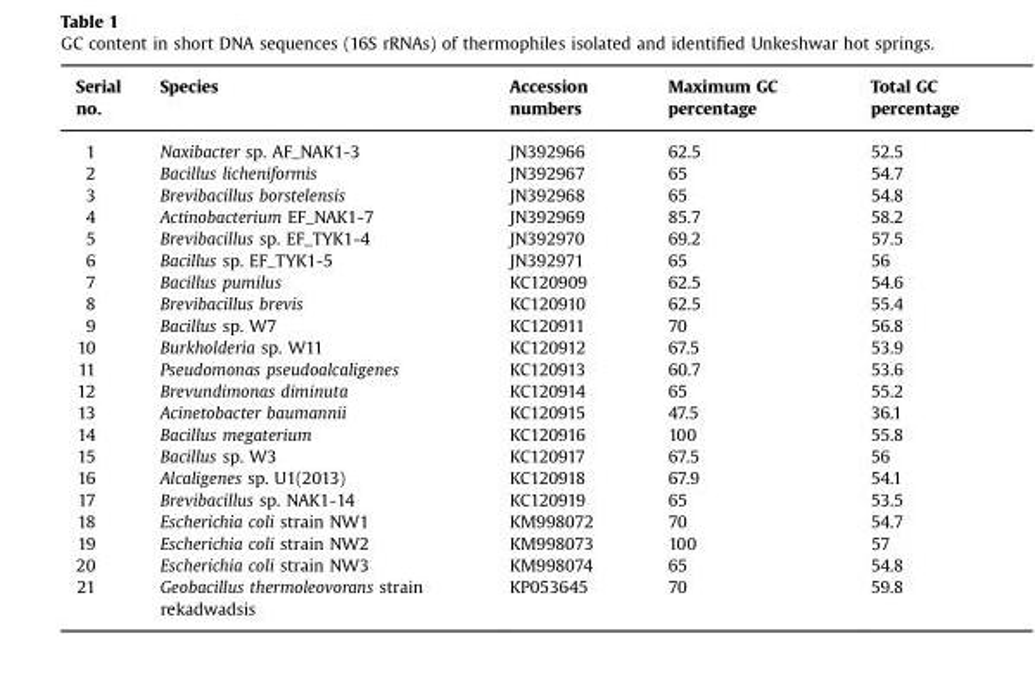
<table><thead><tr><td>Serial no.</td><td>Species</td><td>Accession numbers</td><td>Maximum GC percentage</td><td>Total GC percentage</td></tr></thead><tbody><tr><td>1</td><td>Naxibacter sp. AF_NAK1-3</td><td>JN392966</td><td>62.5</td><td>52.5</td></tr><tr><td>2</td><td>Bacillus licheniformis</td><td>JN392967</td><td>65</td><td>54.7</td></tr><tr><td>3</td><td>Brevibacillus borstelensis</td><td>JN392968</td><td>65</td><td>54.8</td></tr><tr><td>4</td><td>Actinobacterium EF_NAK1-7</td><td>JN392969</td><td>85.7</td><td>58.2</td></tr><tr><td>5</td><td>Brevibacillus sp. EF_TYK1-4</td><td>JN392970</td><td>69.2</td><td>57.5</td></tr><tr><td>6</td><td>Bacillus sp. EF_TYK1-5</td><td>JN392971</td><td>65</td><td>56</td></tr><tr><td>7</td><td>Bacillus pumilus</td><td>KC120909</td><td>62.5</td><td>54.6</td></tr><tr><td>8</td><td>Brevibacillus brevis</td><td>KC120910</td><td>62.5</td><td>55.4</td></tr><tr><td>9</td><td>Bacillus sp. W7</td><td>KC120911</td><td>70</td><td>56.8</td></tr><tr><td>10</td><td>Burkholderia sp. W11</td><td>KC120912</td><td>67.5</td><td>53.9</td></tr><tr><td>11</td><td>Pseudomonas pseudoalcaligenes</td><td>KC120913</td><td>60.7</td><td>53.6</td></tr><tr><td>12</td><td>Brevundimonas diminuta</td><td>KC120914</td><td>65</td><td>55.2</td></tr><tr><td>13</td><td>Acinetobacter baumannii</td><td>KC120915</td><td>47.5</td><td>36.1</td></tr><tr><td>14</td><td>Bacillus megaterium</td><td>KC120916</td><td>100</td><td>55.8</td></tr><tr><td>15</td><td>Bacillus sp. W3</td><td>KC120917</td><td>67.5</td><td>56</td></tr><tr><td>16</td><td>Alcaligenes sp. U1(2013)</td><td>KC120918</td><td>67.9</td><td>54.1</td></tr><tr><td>17</td><td>Brevibacillus sp. NAK1-14</td><td>KC120919</td><td>65</td><td>53.5</td></tr><tr><td>18</td><td>Escherichia coli strain NW1</td><td>KM998072</td><td>70</td><td>54.7</td></tr><tr><td>19</td><td>Escherichia coli strain NW2</td><td>KM998073</td><td>100</td><td>57</td></tr><tr><td>20</td><td>Escherichia coli strain NW3</td><td>KM998074</td><td>65</td><td>54.8</td></tr><tr><td>21</td><td>Geobacillus thermoleovorans strain rekadwadsis</td><td>KP053645</td><td>70</td><td>59.8</td></tr></tbody></table>